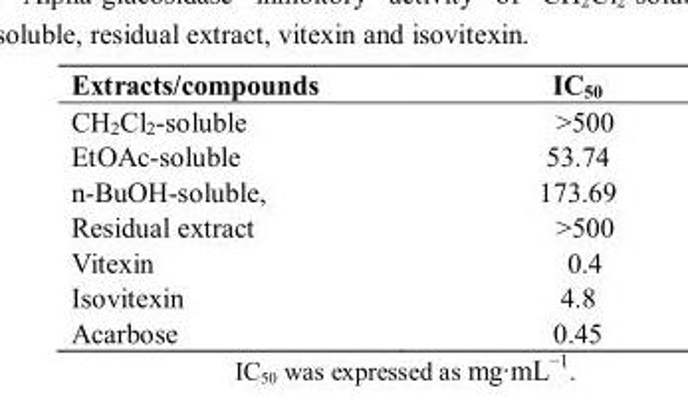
<table><thead><tr><td>Extracts/compounds</td><td>IC<sub>50</sub></td></tr></thead><tbody><tr><td>CH<sub>2</sub>Cl<sub>2</sub>-soluble</td><td>&gt;500</td></tr><tr><td>EtOAc-soluble</td><td>53.74</td></tr><tr><td>n-BuOH-soluble,</td><td>173.69</td></tr><tr><td>Residual extract</td><td>&gt;500</td></tr><tr><td>Vitexin</td><td>0.4</td></tr><tr><td>Isovitexin</td><td>4.8</td></tr><tr><td>Acarbose</td><td>0.45</td></tr></tbody></table>